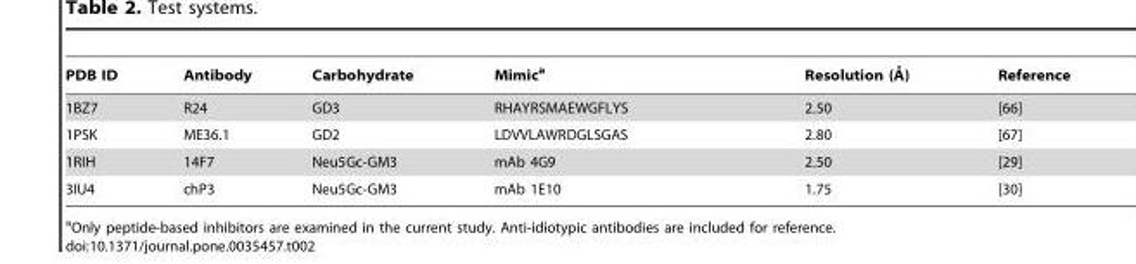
<table><thead><tr><td>PDB ID</td><td>Antibody</td><td>Carbohydrate</td><td>Mimic<sup>a</sup></td><td>Resolution (A˚ )</td><td>Reference</td></tr></thead><tbody><tr><td>1BZ7</td><td>R24</td><td>GD3</td><td>RHAYRSMAEWGFLYS</td><td>2.50</td><td>[66]</td></tr><tr><td>1PSK</td><td>ME36.1</td><td>GD2</td><td>LDVVLAWRDGLSGAS</td><td>2.80</td><td>[67]</td></tr><tr><td>1RIH</td><td>14F7</td><td>Neu5Gc-GM3</td><td>mAb 4G9</td><td>2.50</td><td>[29]</td></tr><tr><td>3IU4</td><td>chP3</td><td>Neu5Gc-GM3</td><td>mAb 1E10</td><td>1.75</td><td>[30]</td></tr></tbody></table>